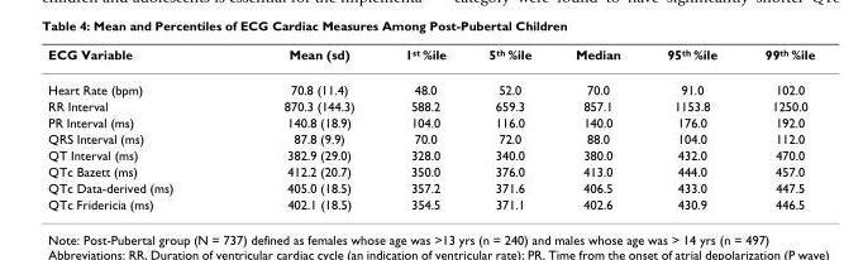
<table><thead><tr><td>ECG Variable</td><td>Mean (sd)</td><td>1<sup>st</sup> %ile</td><td>5<sup>th</sup> %ile</td><td>Median</td><td>95<sup>th</sup> %ile</td><td>99<sup>th</sup> %ile</td></tr></thead><tbody><tr><td>Heart Rate (bpm)</td><td>70.8 (11.4)</td><td>48.0</td><td>52.0</td><td>70.0</td><td>91.0</td><td>102.0</td></tr><tr><td>RR Interval</td><td>870.3 (144.3)</td><td>588.2</td><td>659.3</td><td>857.1</td><td>1153.8</td><td>1250.0</td></tr><tr><td>PR Interval (ms)</td><td>140.8 (18.9)</td><td>104.0</td><td>116.0</td><td>140.0</td><td>176.0</td><td>192.0</td></tr><tr><td>QRS Interval (ms)</td><td>87.8 (9.9)</td><td>70.0</td><td>72.0</td><td>88.0</td><td>104.0</td><td>112.0</td></tr><tr><td>QT Interval (ms)</td><td>382.9 (29.0)</td><td>328.0</td><td>340.0</td><td>380.0</td><td>432.0</td><td>470.0</td></tr><tr><td>QTc Bazett (ms)</td><td>412.2 (20.7)</td><td>350.0</td><td>376.0</td><td>413.0</td><td>444.0</td><td>457.0</td></tr><tr><td>QTc Data-derived (ms)</td><td>405.0 (18.5)</td><td>357.2</td><td>371.6</td><td>406.5</td><td>433.0</td><td>447.5</td></tr><tr><td>QTc Fridericia (ms)</td><td>402.1 (18.5)</td><td>354.5</td><td>371.1</td><td>402.6</td><td>430.9</td><td>446.5</td></tr></tbody></table>